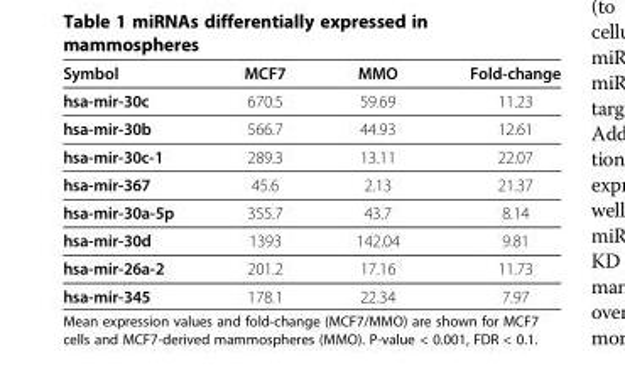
<table><thead><tr><td>Symbol</td><td>MCF7</td><td>MMO</td><td>Fold-change</td></tr></thead><tbody><tr><td>hsa-mir-30c</td><td>670.5</td><td>59.69</td><td>11.23</td></tr><tr><td>hsa-mir-30b</td><td>566.7</td><td>44.93</td><td>12.61</td></tr><tr><td>hsa-mir-30c-1</td><td>289.3</td><td>13.11</td><td>22.07</td></tr><tr><td>hsa-mir-367</td><td>45.6</td><td>2.13</td><td>21.37</td></tr><tr><td>hsa-mir-30a-5p</td><td>355.7</td><td>43.7</td><td>8.14</td></tr><tr><td>hsa-mir-30d</td><td>1393</td><td>142.04</td><td>9.81</td></tr><tr><td>hsa-mir-26a-2</td><td>201.2</td><td>17.16</td><td>11.73</td></tr><tr><td>hsa-mir-345</td><td>178.1</td><td>22.34</td><td>7.97</td></tr></tbody></table>